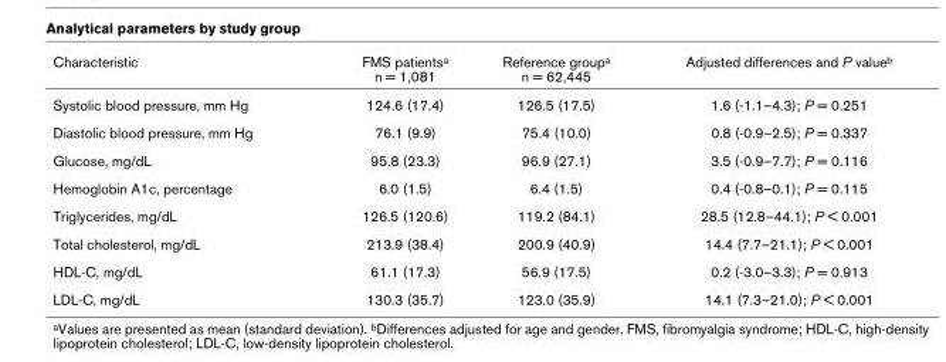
<table><thead><tr><td>Characteristic</td><td>FMS patients<sup>a</sup> n = 1,081</td><td>Reference group<sup>a</sup> n = 62,445</td><td>Adjusted differences and P value<sup>b</sup></td></tr></thead><tbody><tr><td>Systolic blood pressure, mm Hg</td><td>124.6 (17.4)</td><td>126.5 (17.5)</td><td>1.6 (-1.1–4.3); P = 0.251</td></tr><tr><td>Diastolic blood pressure, mm Hg</td><td>76.1 (9.9)</td><td>75.4 (10.0)</td><td>0.8 (-0.9–2.5); P = 0.337</td></tr><tr><td>Glucose, mg/dL</td><td>95.8 (23.3)</td><td>96.9 (27.1)</td><td>3.5 (-0.9–7.7); P = 0.116</td></tr><tr><td>Hemoglobin A1c, percentage</td><td>6.0 (1.5)</td><td>6.4 (1.5)</td><td>0.4 (-0.8–0.1); P = 0.115</td></tr><tr><td>Triglycerides, mg/dL</td><td>126.5 (120.6)</td><td>119.2 (84.1)</td><td>28.5 (12.8–44.1); P &lt; 0.001</td></tr><tr><td>Total cholesterol, mg/dL</td><td>213.9 (38.4)</td><td>200.9 (40.9)</td><td>14.4 (7.7–21.1); P &lt; 0.001</td></tr><tr><td>HDL-C, mg/dL</td><td>61.1 (17.3)</td><td>56.9 (17.5)</td><td>0.2 (-3.0–3.3); P = 0.913</td></tr><tr><td>LDL-C, mg/dL</td><td>130.3 (35.7)</td><td>123.0 (35.9)</td><td>14.1 (7.3–21.0); P &lt; 0.001</td></tr></tbody></table>